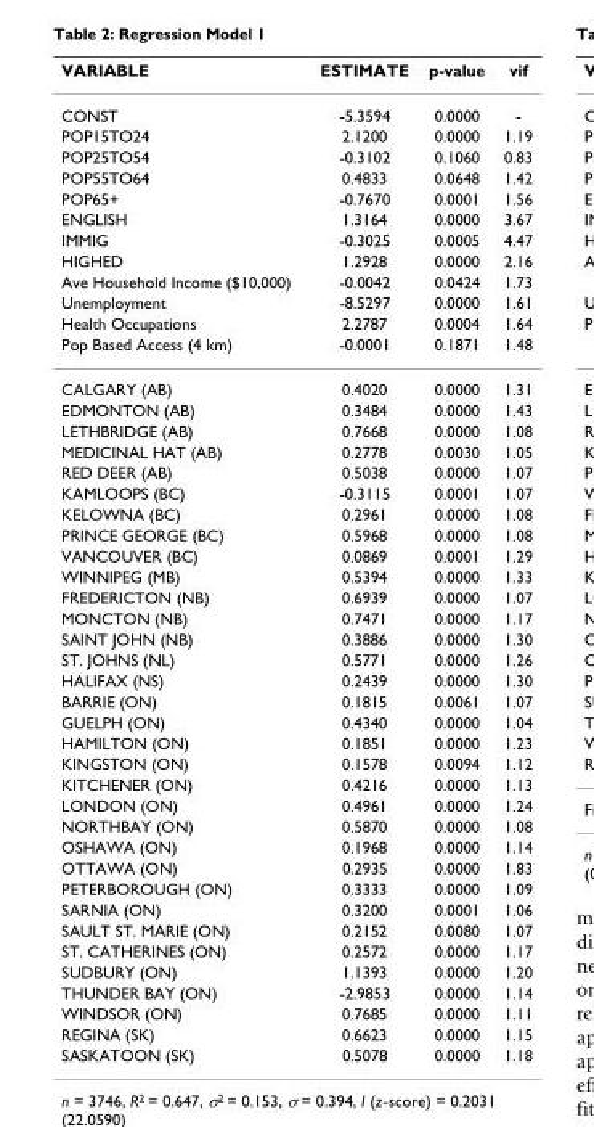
<table><thead><tr><td>VARIABLE</td><td>ESTIMATE</td><td>p-value</td><td>vif</td></tr></thead><tbody><tr><td>CONST</td><td>-5.3594</td><td>0.0000</td><td>-</td></tr><tr><td>POP15TO24</td><td>2.1200</td><td>0.0000</td><td>1.19</td></tr><tr><td>POP25TO54</td><td>-0.3102</td><td>0.1060</td><td>0.83</td></tr><tr><td>POP55TO64</td><td>0.4833</td><td>0.0648</td><td>1.42</td></tr><tr><td>POP65+</td><td>-0.7670</td><td>0.0001</td><td>1.56</td></tr><tr><td>ENGLISH</td><td>1.3164</td><td>0.0000</td><td>3.67</td></tr><tr><td>IMMIG</td><td>-0.3025</td><td>0.0005</td><td>4.47</td></tr><tr><td>HIGHED</td><td>1.2928</td><td>0.0000</td><td>2.16</td></tr><tr><td>Ave Household Income ($10,000)</td><td>-0.0042</td><td>0.0424</td><td>1.73</td></tr><tr><td>Unemployment</td><td>-8.5297</td><td>0.0000</td><td>1.61</td></tr><tr><td>Health Occupations</td><td>2.2787</td><td>0.0004</td><td>1.64</td></tr><tr><td>Pop Based Access (4 km)</td><td>-0.0001</td><td>0.1871</td><td>1.48</td></tr><tr><td>CALGARY (AB)</td><td>0.4020</td><td>0.0000</td><td>1.31</td></tr><tr><td>EDMONTON (AB)</td><td>0.3484</td><td>0.0000</td><td>1.43</td></tr><tr><td>LETHBRIDGE (AB)</td><td>0.7668</td><td>0.0000</td><td>1.08</td></tr><tr><td>MEDICINAL HAT (AB)</td><td>0.2778</td><td>0.0030</td><td>1.05</td></tr><tr><td>RED DEER (AB)</td><td>0.5038</td><td>0.0000</td><td>1.07</td></tr><tr><td>KAMLOOPS (BC)</td><td>-0.3115</td><td>0.0001</td><td>1.07</td></tr><tr><td>KELOWNA (BC)</td><td>0.2961</td><td>0.0000</td><td>1.08</td></tr><tr><td>PRINCE GEORGE (BC)</td><td>0.5968</td><td>0.0000</td><td>1.08</td></tr><tr><td>VANCOUVER (BC)</td><td>0.0869</td><td>0.0001</td><td>1.29</td></tr><tr><td>WINNIPEG (MB)</td><td>0.5394</td><td>0.0000</td><td>1.33</td></tr><tr><td>FREDERICTON (NB)</td><td>0.6939</td><td>0.0000</td><td>1.07</td></tr><tr><td>MONCTON (NB)</td><td>0.7471</td><td>0.0000</td><td>1.17</td></tr><tr><td>SAINT JOHN (NB)</td><td>0.3886</td><td>0.0000</td><td>1.30</td></tr><tr><td>ST. JOHNS (NL)</td><td>0.5771</td><td>0.0000</td><td>1.26</td></tr><tr><td>HALIFAX (NS)</td><td>0.2439</td><td>0.0000</td><td>1.30</td></tr><tr><td>BARRIE (ON)</td><td>0.1815</td><td>0.0061</td><td>1.07</td></tr><tr><td>GUELPH (ON)</td><td>0.4340</td><td>0.0000</td><td>1.04</td></tr><tr><td>HAMILTON (ON)</td><td>0.1851</td><td>0.0000</td><td>1.23</td></tr><tr><td>KINGSTON (ON)</td><td>0.1578</td><td>0.0094</td><td>1.12</td></tr><tr><td>KITCHENER (ON)</td><td>0.4216</td><td>0.0000</td><td>1.13</td></tr><tr><td>LONDON (ON)</td><td>0.4961</td><td>0.0000</td><td>1.24</td></tr><tr><td>NORTHBAY (ON)</td><td>0.5870</td><td>0.0000</td><td>1.08</td></tr><tr><td>OSHAWA (ON)</td><td>0.1968</td><td>0.0000</td><td>1.14</td></tr><tr><td>OTTAWA (ON)</td><td>0.2935</td><td>0.0000</td><td>1.83</td></tr><tr><td>PETERBOROUGH (ON)</td><td>0.3333</td><td>0.0000</td><td>1.09</td></tr><tr><td>SARNIA (ON)</td><td>0.3200</td><td>0.0001</td><td>1.06</td></tr><tr><td>SAULT ST. MARIE (ON)</td><td>0.2152</td><td>0.0080</td><td>1.07</td></tr><tr><td>ST. CATHERINES (ON)</td><td>0.2572</td><td>0.0000</td><td>1.17</td></tr><tr><td>SUDBURY (ON)</td><td>1.1393</td><td>0.0000</td><td>1.20</td></tr><tr><td>THUNDER BAY (ON)</td><td>-2.9853</td><td>0.0000</td><td>1.14</td></tr><tr><td>WINDSOR (ON)</td><td>0.7685</td><td>0.0000</td><td>1.11</td></tr><tr><td>REGINA (SK)</td><td>0.6623</td><td>0.0000</td><td>1.15</td></tr><tr><td>SASKATOON (SK)</td><td>0.5078</td><td>0.0000</td><td>1.18</td></tr></tbody></table>